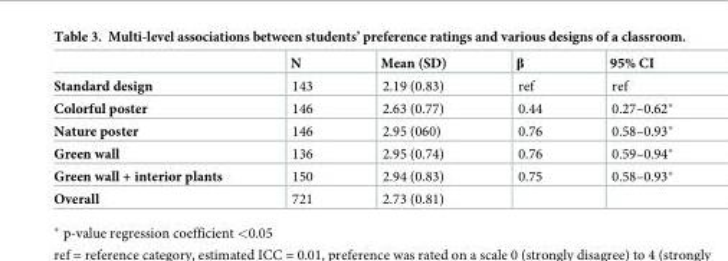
<table><thead><tr><td></td><td>N</td><td>Mean (SD)</td><td>β</td><td>95% CI</td></tr></thead><tbody><tr><td>Standard design</td><td>143</td><td>2.19 (0.83)</td><td>ref</td><td>ref</td></tr><tr><td>Colorful poster</td><td>146</td><td>2.63 (0.77)</td><td>0.44</td><td>0.27–0.62*</td></tr><tr><td>Nature poster</td><td>146</td><td>2.95 (060)</td><td>0.76</td><td>0.58–0.93*</td></tr><tr><td>Green wall</td><td>136</td><td>2.95 (0.74)</td><td>0.76</td><td>0.59–0.94*</td></tr><tr><td>Green wall + interior plants</td><td>150</td><td>2.94 (0.83)</td><td>0.75</td><td>0.58–0.93*</td></tr><tr><td>Overall</td><td>721</td><td>2.73 (0.81)</td><td></td><td></td></tr></tbody></table>